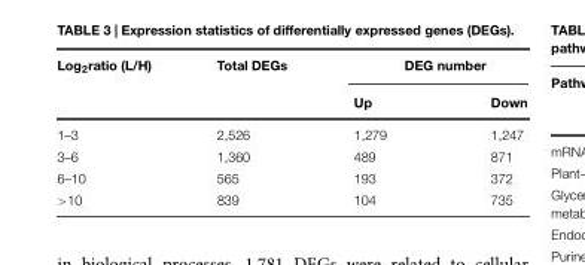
<table><thead><tr><td rowspan="2">Log<sub>2</sub>ratio (L/H)</td><td rowspan="2">Total DEGs</td><td colspan="2">DEG number</td></tr><tr><td>Up</td><td>Down</td></tr></thead><tbody><tr><td>1–3</td><td>2,526</td><td>1,279</td><td>1,247</td></tr><tr><td>3–6</td><td>1,360</td><td>489</td><td>871</td></tr><tr><td>6–10</td><td>565</td><td>193</td><td>372</td></tr><tr><td>&gt;10</td><td>839</td><td>104</td><td>735</td></tr></tbody></table>